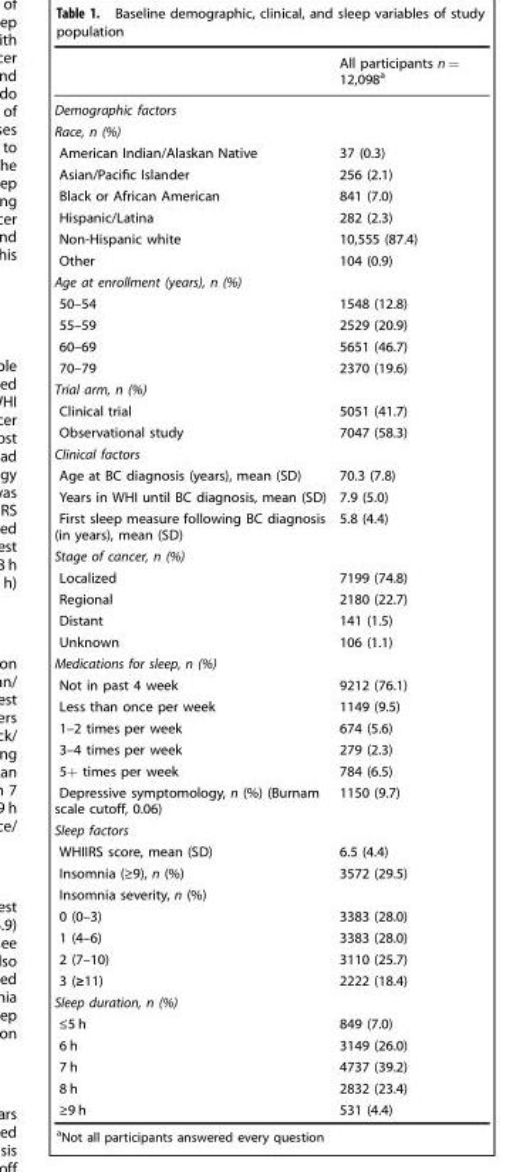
<table><thead><tr><td></td><td>All participants n = 12,098<sup>a</sup></td></tr></thead><tbody><tr><td colspan="2">Demographic factors</td></tr><tr><td colspan="2">Race, n (%)</td></tr><tr><td>American Indian/Alaskan Native</td><td>37 (0.3)</td></tr><tr><td>Asian/Pacific Islander</td><td>256 (2.1)</td></tr><tr><td>Black or African American</td><td>841 (7.0)</td></tr><tr><td>Hispanic/Latina</td><td>282 (2.3)</td></tr><tr><td>Non-Hispanic white</td><td>10,555 (87.4)</td></tr><tr><td>Other</td><td>104 (0.9)</td></tr><tr><td colspan="2">Age at enrollment (years), n (%)</td></tr><tr><td>50–54</td><td>1548 (12.8)</td></tr><tr><td>55–59</td><td>2529 (20.9)</td></tr><tr><td>60–69</td><td>5651 (46.7)</td></tr><tr><td>70–79</td><td>2370 (19.6)</td></tr><tr><td colspan="2">Trial arm, n (%)</td></tr><tr><td>Clinical trial</td><td>5051 (41.7)</td></tr><tr><td>Observational study</td><td>7047 (58.3)</td></tr><tr><td colspan="2">Clinical factors</td></tr><tr><td>Age at BC diagnosis (years), mean (SD)</td><td>70.3 (7.8)</td></tr><tr><td>Years in WHI until BC diagnosis, mean (SD)</td><td>7.9 (5.0)</td></tr><tr><td>First sleep measure following BC diagnosis (in years), mean (SD)</td><td>5.8 (4.4)</td></tr><tr><td colspan="2">Stage of cancer, n (%)</td></tr><tr><td>Localized</td><td>7199 (74.8)</td></tr><tr><td>Regional</td><td>2180 (22.7)</td></tr><tr><td>Distant</td><td>141 (1.5)</td></tr><tr><td>Unknown</td><td>106 (1.1)</td></tr><tr><td colspan="2">Medications for sleep, n (%)</td></tr><tr><td>Not in past 4 week</td><td>9212 (76.1)</td></tr><tr><td>Less than once per week</td><td>1149 (9.5)</td></tr><tr><td>1–2 times per week</td><td>674 (5.6)</td></tr><tr><td>3–4 times per week</td><td>279 (2.3)</td></tr><tr><td>5+ times per week</td><td>784 (6.5)</td></tr><tr><td>Depressive symptomology, n (%) (Burnam scale cutoff, 0.06)</td><td>1150 (9.7)</td></tr><tr><td colspan="2">Sleep factors</td></tr><tr><td>WHIIRS score, mean (SD)</td><td>6.5 (4.4)</td></tr><tr><td>Insomnia (≥9), n (%)</td><td>3572 (29.5)</td></tr><tr><td colspan="2">Insomnia severity, n (%)</td></tr><tr><td>0 (0–3)</td><td>3383 (28.0)</td></tr><tr><td>1 (4–6)</td><td>3383 (28.0)</td></tr><tr><td>2 (7–10)</td><td>3110 (25.7)</td></tr><tr><td>3 (≥11)</td><td>2222 (18.4)</td></tr><tr><td colspan="2">Sleep duration, n (%)</td></tr><tr><td>≤5 h</td><td>849 (7.0)</td></tr><tr><td>6 h</td><td>3149 (26.0)</td></tr><tr><td>7 h</td><td>4737 (39.2)</td></tr><tr><td>8 h</td><td>2832 (23.4)</td></tr><tr><td>≥9 h</td><td>531 (4.4)</td></tr></tbody></table>